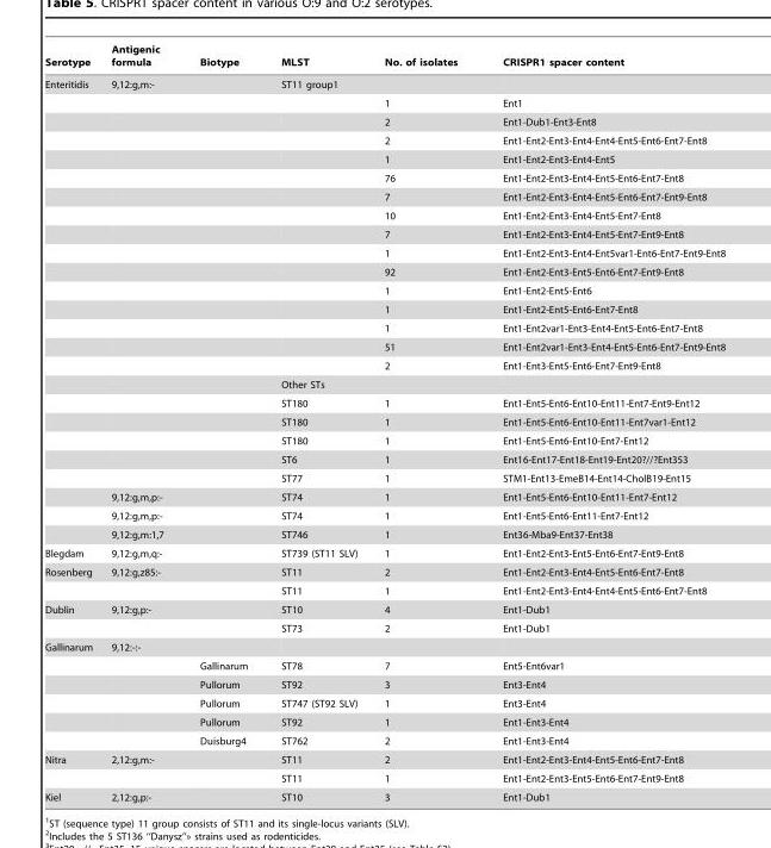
<table><thead><tr><td>Serotype</td><td>Antigenic formula</td><td>Biotype</td><td>MLST</td><td>No. of isolates</td><td>CRISPR1 spacer content</td></tr></thead><tbody><tr><td rowspan="25">Enteritidis</td><td>9,12:g,m:-</td><td></td><td>ST11 group1</td><td></td><td></td></tr><tr><td></td><td></td><td></td><td>1</td><td>Ent1</td></tr><tr><td></td><td></td><td></td><td>2</td><td>Ent1-Dub1-Ent3-Ent8</td></tr><tr><td></td><td></td><td></td><td>2</td><td>Ent1-Ent2-Ent3-Ent4-Ent4-Ent5-Ent6-Ent7-Ent8</td></tr><tr><td></td><td></td><td></td><td>1</td><td>Ent1-Ent2-Ent3-Ent4-Ent5</td></tr><tr><td></td><td></td><td></td><td>76</td><td>Ent1-Ent2-Ent3-Ent4-Ent5-Ent6-Ent7-Ent8</td></tr><tr><td></td><td></td><td></td><td>7</td><td>Ent1-Ent2-Ent3-Ent4-Ent5-Ent6-Ent7-Ent9-Ent8</td></tr><tr><td></td><td></td><td></td><td>10</td><td>Ent1-Ent2-Ent3-Ent4-Ent5-Ent7-Ent8</td></tr><tr><td></td><td></td><td></td><td>7</td><td>Ent1-Ent2-Ent3-Ent4-Ent5-Ent7-Ent9-Ent8</td></tr><tr><td></td><td></td><td></td><td>1</td><td>Ent1-Ent2-Ent3-Ent4-Ent5var1-Ent6-Ent7-Ent9-Ent8</td></tr><tr><td></td><td></td><td></td><td>92</td><td>Ent1-Ent2-Ent3-Ent5-Ent6-Ent7-Ent9-Ent8</td></tr><tr><td></td><td></td><td></td><td>1</td><td>Ent1-Ent2-Ent5-Ent6</td></tr><tr><td></td><td></td><td></td><td>1</td><td>Ent1-Ent2-Ent5-Ent6-Ent7-Ent8</td></tr><tr><td></td><td></td><td></td><td>1</td><td>Ent1-Ent2var1-Ent3-Ent4-Ent5-Ent6-Ent7-Ent8</td></tr><tr><td></td><td></td><td></td><td>51</td><td>Ent1-Ent2var1-Ent3-Ent4-Ent5-Ent6-Ent7-Ent9-Ent8</td></tr><tr><td></td><td></td><td></td><td>2</td><td>Ent1-Ent3-Ent5-Ent6-Ent7-Ent9-Ent8</td></tr><tr><td></td><td></td><td>Other STs</td><td></td><td></td></tr><tr><td></td><td></td><td>ST180</td><td>1</td><td>Ent1-Ent5-Ent6-Ent10-Ent11-Ent7-Ent9-Ent12</td></tr><tr><td></td><td></td><td>ST180</td><td>1</td><td>Ent1-Ent5-Ent6-Ent10-Ent11-Ent7var1-Ent12</td></tr><tr><td></td><td></td><td>ST180</td><td>1</td><td>Ent1-Ent5-Ent6-Ent10-Ent7-Ent12</td></tr><tr><td></td><td></td><td>ST6</td><td>1</td><td>Ent16-Ent17-Ent18-Ent19-Ent20?//?Ent353</td></tr><tr><td></td><td></td><td>ST77</td><td>1</td><td>STM1-Ent13-EmeB14-Ent14-CholB19-Ent15</td></tr><tr><td>9,12:g,m,p:-</td><td></td><td>ST74</td><td>1</td><td>Ent1-Ent5-Ent6-Ent10-Ent11-Ent7-Ent12</td></tr><tr><td>9,12:g,m,p:-</td><td></td><td>ST74</td><td>1</td><td>Ent1-Ent5-Ent6-Ent11-Ent7-Ent12</td></tr><tr><td>9,12:g,m:1,7</td><td></td><td>ST746</td><td>1</td><td>Ent36-Mba9-Ent37-Ent38</td></tr><tr><td>Blegdam</td><td>9,12:g,m,q:-</td><td></td><td>ST739 (ST11 SLV)</td><td>1</td><td>Ent1-Ent2-Ent3-Ent5-Ent6-Ent7-Ent9-Ent8</td></tr><tr><td rowspan="2">Rosenberg</td><td>9,12:g,z85:-</td><td></td><td>ST11</td><td>2</td><td>Ent1-Ent2-Ent3-Ent4-Ent5-Ent6-Ent7-Ent8</td></tr><tr><td></td><td></td><td>ST11</td><td>1</td><td>Ent1-Ent2-Ent3-Ent4-Ent4-Ent5-Ent6-Ent7-Ent8</td></tr><tr><td rowspan="2">Dublin</td><td>9,12:g,p:-</td><td></td><td>ST10</td><td>4</td><td>Ent1-Dub1</td></tr><tr><td></td><td></td><td>ST73</td><td>2</td><td>Ent1-Dub1</td></tr><tr><td rowspan="6">Gallinarum</td><td>9,12:-:-</td><td></td><td></td><td></td><td></td></tr><tr><td></td><td>Gallinarum</td><td>ST78</td><td>7</td><td>Ent5-Ent6var1</td></tr><tr><td></td><td>Pullorum</td><td>ST92</td><td>3</td><td>Ent3-Ent4</td></tr><tr><td></td><td>Pullorum</td><td>ST747 (ST92 SLV)</td><td>1</td><td>Ent3-Ent4</td></tr><tr><td></td><td>Pullorum</td><td>ST92</td><td>1</td><td>Ent1-Ent3-Ent4</td></tr><tr><td></td><td>Duisburg4</td><td>ST762</td><td>2</td><td>Ent1-Ent3-Ent4</td></tr><tr><td rowspan="2">Nitra</td><td>2,12:g,m:-</td><td></td><td>ST11</td><td>2</td><td>Ent1-Ent2-Ent3-Ent4-Ent5-Ent6-Ent7-Ent8</td></tr><tr><td></td><td></td><td>ST11</td><td>1</td><td>Ent1-Ent2-Ent3-Ent5-Ent6-Ent7-Ent9-Ent8</td></tr><tr><td>Kiel</td><td>2,12:g,p:-</td><td></td><td>ST10</td><td>3</td><td>Ent1-Dub1</td></tr></tbody></table>